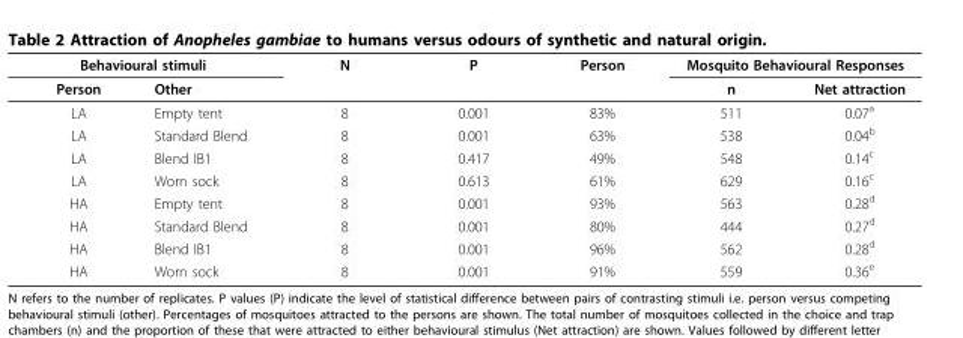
<table><thead><tr><td colspan="2">Behavioural stimuli</td><td rowspan="2">N</td><td rowspan="2">P</td><td rowspan="2">Person</td><td colspan="2">Mosquito Behavioural Responses</td></tr><tr><td>Person</td><td>Other</td><td>n</td><td>Net attraction</td></tr></thead><tbody><tr><td>LA</td><td>Empty tent</td><td>8</td><td>0.001</td><td>83%</td><td>511</td><td>0.07<sup>a</sup></td></tr><tr><td>LA</td><td>Standard Blend</td><td>8</td><td>0.001</td><td>63%</td><td>538</td><td>0.04<sup>b</sup></td></tr><tr><td>LA</td><td>Blend IB1</td><td>8</td><td>0.417</td><td>49%</td><td>548</td><td>0.14<sup>c</sup></td></tr><tr><td>LA</td><td>Worn sock</td><td>8</td><td>0.613</td><td>61%</td><td>629</td><td>0.16<sup>c</sup></td></tr><tr><td>HA</td><td>Empty tent</td><td>8</td><td>0.001</td><td>93%</td><td>563</td><td>0.28<sup>d</sup></td></tr><tr><td>HA</td><td>Standard Blend</td><td>8</td><td>0.001</td><td>80%</td><td>444</td><td>0.27<sup>d</sup></td></tr><tr><td>HA</td><td>Blend IB1</td><td>8</td><td>0.001</td><td>96%</td><td>562</td><td>0.28<sup>d</sup></td></tr><tr><td>HA</td><td>Worn sock</td><td>8</td><td>0.001</td><td>91%</td><td>559</td><td>0.36<sup>e</sup></td></tr></tbody></table>